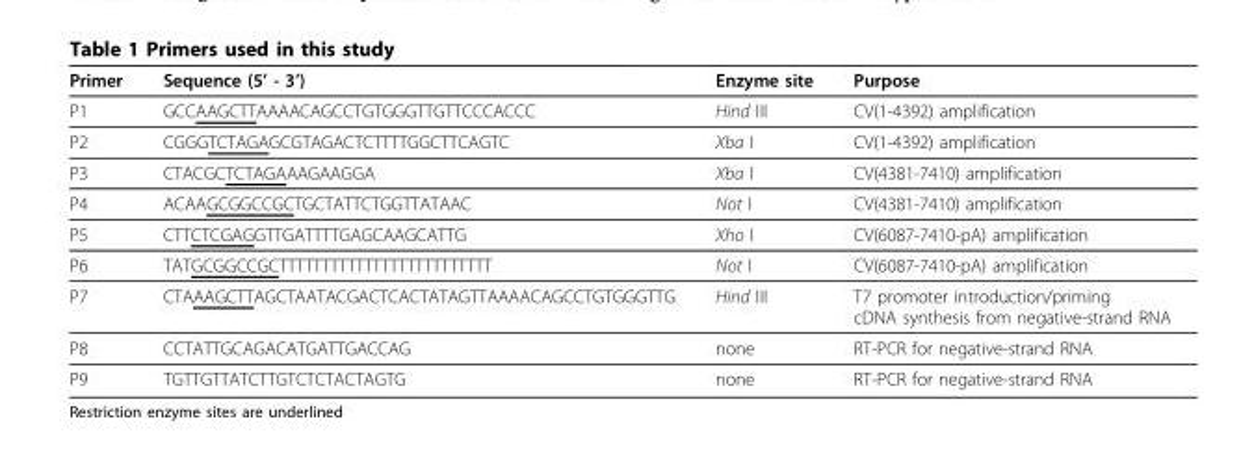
<table><thead><tr><td>Primer</td><td>Sequence (5’ - 3’)</td><td>Enzyme site</td><td>Purpose</td></tr></thead><tbody><tr><td>P1</td><td>GCCAAGCTTAAAACAGCCTGTGGGTTGTTCCCACCC</td><td>Hind III</td><td>CV(1-4392) amplification</td></tr><tr><td>P2</td><td>CGGGTCTAGAGCGTAGACTCTTTTGGCTTCAGTC</td><td>Xba I</td><td>CV(1-4392) amplification</td></tr><tr><td>P3</td><td>CTACGCTCTAGAAAGAAGGA</td><td>Xba I</td><td>CV(4381-7410) amplification</td></tr><tr><td>P4</td><td>ACAAGCGGCCGCTGCTATTCTGGTTATAAC</td><td>Not I</td><td>CV(4381-7410) amplification</td></tr><tr><td>P5</td><td>CTTCTCGAGGTTGATTTTGAGCAAGCATTG</td><td>Xho I</td><td>CV(6087-7410-pA) amplification</td></tr><tr><td>P6</td><td>TATGCGGCCGCTTTTTTTTTTTTTTTTTTTTTTTTT</td><td>Not I</td><td>CV(6087-7410-pA) amplification</td></tr><tr><td>P7</td><td>CTAAAGCTTAGCTAATACGACTCACTATAGTTAAAACAGCCTGTGGGTTG</td><td>Hind III</td><td>T7 promoter introduction/priming cDNA synthesis from negative-strand RNA</td></tr><tr><td>P8</td><td>CCTATTGCAGACATGATTGACCAG</td><td>none</td><td>RT-PCR for negative-strand RNA</td></tr><tr><td>P9</td><td>TGTTGTTATCTTGTCTCTACTAGTG</td><td>none</td><td>RT-PCR for negative-strand RNA</td></tr></tbody></table>